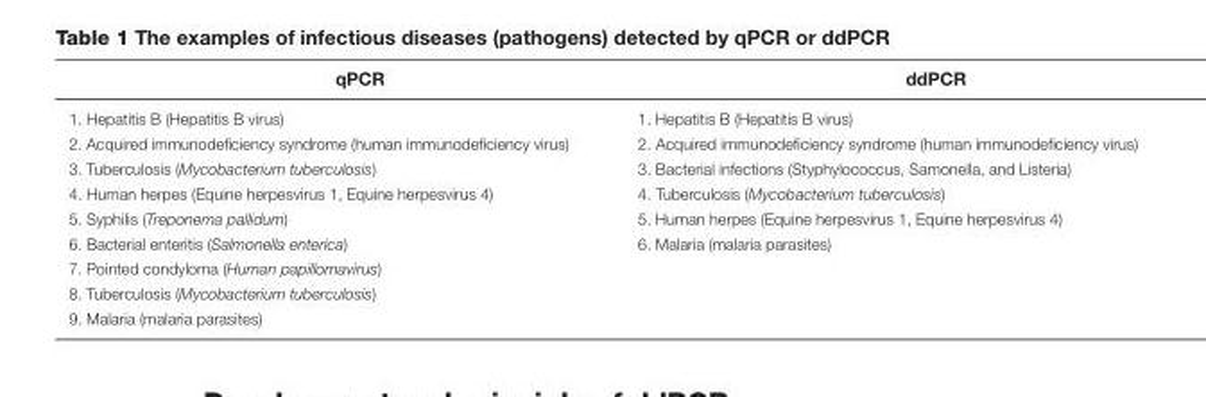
<table><thead><tr><td>qPCR</td><td>ddPCR</td></tr></thead><tbody><tr><td>1. Hepatitis B (Hepatitis B virus)</td><td>1. Hepatitis B (Hepatitis B virus)</td></tr><tr><td>2. Acquired immunodeficiency syndrome (human immunodeficiency virus)</td><td>2. Acquired immunodeficiency syndrome (human immunodeficiency virus)</td></tr><tr><td>3. Tuberculosis (Mycobacterium tuberculosis)</td><td>3. Bacterial infections (Styphylococcus, Samonella, and Listeria)</td></tr><tr><td>4. Human herpes (Equine herpesvirus 1, Equine herpesvirus 4)</td><td>4. Tuberculosis (Mycobacterium tuberculosis)</td></tr><tr><td>5. Syphilis (Treponema pallidum)</td><td>5. Human herpes (Equine herpesvirus 1, Equine herpesvirus 4)</td></tr><tr><td>6. Bacterial enteritis (Salmonella enterica)</td><td>6. Malaria (malaria parasites)</td></tr><tr><td colspan="2">7. Pointed condyloma (Human papillomavirus)</td></tr><tr><td colspan="2">8. Tuberculosis (Mycobacterium tuberculosis)</td></tr><tr><td>9. Malaria (malaria parasites)</td><td></td></tr></tbody></table>